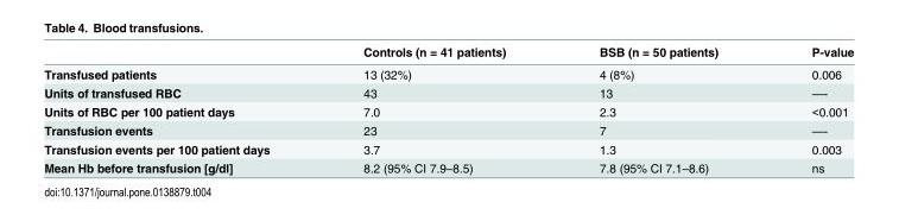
<table><thead><tr><td></td><td>Controls (n = 41 patients)</td><td>BSB (n = 50 patients)</td><td>P-value</td></tr></thead><tbody><tr><td>Transfused patients</td><td>13 (32%)</td><td>4 (8%)</td><td>0.006</td></tr><tr><td>Units of transfused RBC</td><td>43</td><td>13</td><td>—-</td></tr><tr><td>Units of RBC per 100 patient days</td><td>7.0</td><td>2.3</td><td>&lt;0.001</td></tr><tr><td>Transfusion events</td><td>23</td><td>7</td><td>—-</td></tr><tr><td>Transfusion events per 100 patient days</td><td>3.7</td><td>1.3</td><td>0.003</td></tr><tr><td>Mean Hb before transfusion [g/dl]</td><td>8.2 (95% CI 7.9–8.5)</td><td>7.8 (95% CI 7.1–8.6)</td><td>ns</td></tr></tbody></table>